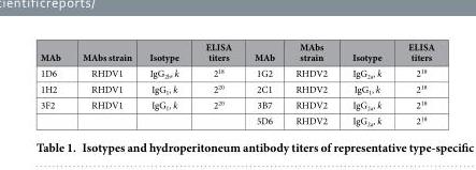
<table><thead><tr><td>MAb</td><td>MAbs strain</td><td>Isotype</td><td>ELISA titers</td><td>MAb</td><td>MAbs strain</td><td>Isotype</td><td>ELISA titers</td></tr></thead><tbody><tr><td>1D6</td><td>RHDV1</td><td>IgG<sub>2b</sub>, k</td><td>2<sup>18</sup></td><td>1G2</td><td>RHDV2</td><td>IgG<sub>2a</sub>, k</td><td>2<sup>18</sup></td></tr><tr><td>1H2</td><td>RHDV1</td><td>IgG<sub>1</sub>, k</td><td>2<sup>20</sup></td><td>2C1</td><td>RHDV2</td><td>IgG<sub>1</sub>, k</td><td>2<sup>18</sup></td></tr><tr><td rowspan="2">3F2</td><td>RHDV1</td><td>IgG<sub>1</sub>, k</td><td>2<sup>20</sup></td><td>3B7</td><td>RHDV2</td><td>IgG<sub>2a</sub>, k</td><td>2<sup>18</sup></td></tr><tr><td></td><td></td><td></td><td>5D6</td><td>RHDV2</td><td>IgG<sub>2a</sub>, k</td><td>2<sup>18</sup></td></tr></tbody></table>